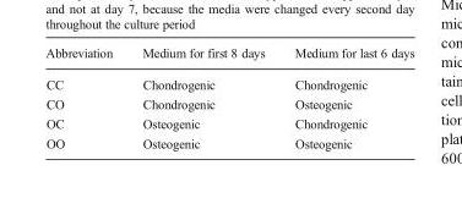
<table><thead><tr><td>Abbreviation</td><td>Medium for first 8 days</td><td>Medium for last 6 days</td></tr></thead><tbody><tr><td>CC</td><td>Chondrogenic</td><td>Chondrogenic</td></tr><tr><td>CO</td><td>Chondrogenic</td><td>Osteogenic</td></tr><tr><td>OC</td><td>Osteogenic</td><td>Chondrogenic</td></tr><tr><td>OO</td><td>Osteogenic</td><td>Osteogenic</td></tr></tbody></table>